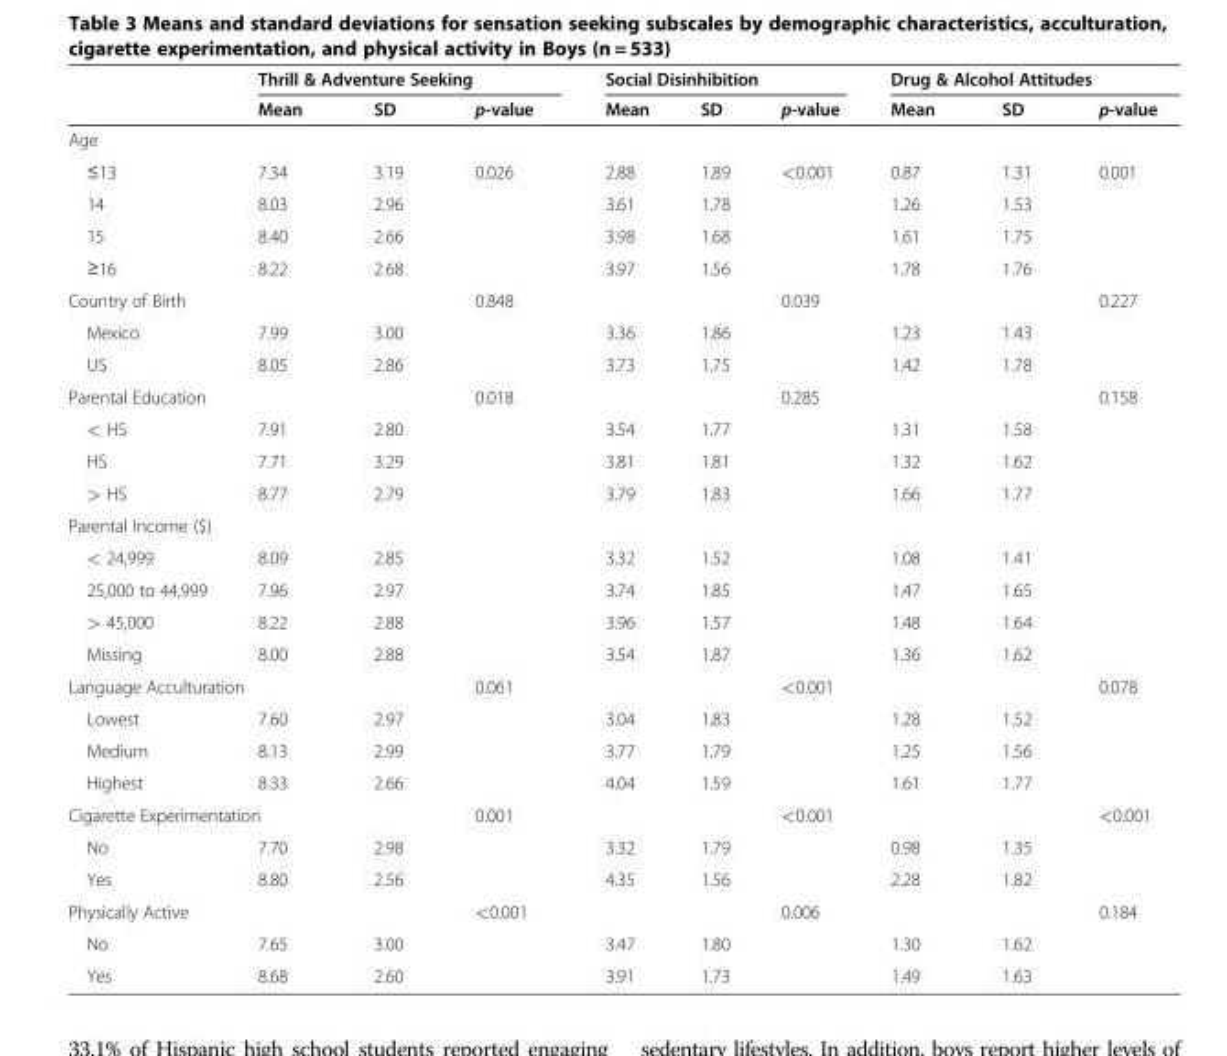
<table><thead><tr><td rowspan="2"></td><td colspan="3">Thrill &amp; Adventure Seeking</td><td colspan="3">Social Disinhibition</td><td colspan="3">Drug &amp; Alcohol Attitudes</td></tr><tr><td>Mean</td><td>SD</td><td>p-value</td><td>Mean</td><td>SD</td><td>p-value</td><td>Mean</td><td>SD</td><td>p-value</td></tr></thead><tbody><tr><td colspan="10">Age</td></tr><tr><td>≤13</td><td>7.34</td><td>3.19</td><td>0.026</td><td>2.88</td><td>1.89</td><td>&lt;0.001</td><td>0.87</td><td>1.31</td><td>0.001</td></tr><tr><td>14</td><td>8.03</td><td>2.96</td><td></td><td>3.61</td><td>1.78</td><td></td><td>1.26</td><td>1.53</td><td></td></tr><tr><td>15</td><td>8.40</td><td>2.66</td><td></td><td>3.98</td><td>1.68</td><td></td><td>1.61</td><td>1.75</td><td></td></tr><tr><td>≥16</td><td>8.22</td><td>2.68</td><td></td><td>3.97</td><td>1.56</td><td></td><td>1.78</td><td>1.76</td><td></td></tr><tr><td>Country of Birth</td><td></td><td></td><td>0.848</td><td></td><td></td><td>0.039</td><td></td><td></td><td>0.227</td></tr><tr><td>Mexico</td><td>7.99</td><td>3.00</td><td></td><td>3.36</td><td>1.86</td><td></td><td>1.23</td><td>1.43</td><td></td></tr><tr><td>US</td><td>8.05</td><td>2.86</td><td></td><td>3.73</td><td>1.75</td><td></td><td>1.42</td><td>1.78</td><td></td></tr><tr><td>Parental Education</td><td></td><td></td><td>0.018</td><td></td><td></td><td>0.285</td><td></td><td></td><td>0.158</td></tr><tr><td>&lt; HS</td><td>7.91</td><td>2.80</td><td></td><td>3.54</td><td>1.77</td><td></td><td>1.31</td><td>1.58</td><td></td></tr><tr><td>HS</td><td>7.71</td><td>3.29</td><td></td><td>3.81</td><td>1.81</td><td></td><td>1.32</td><td>1.62</td><td></td></tr><tr><td>&gt; HS</td><td>8.77</td><td>2.79</td><td></td><td>3.79</td><td>1.83</td><td></td><td>1.66</td><td>1.77</td><td></td></tr><tr><td colspan="10">Parental Income ($)</td></tr><tr><td>&lt; 24,999</td><td>8.09</td><td>2.85</td><td></td><td>3.32</td><td>1.52</td><td></td><td>1.08</td><td>1.41</td><td></td></tr><tr><td>25,000 to 44,999</td><td>7.96</td><td>2.97</td><td></td><td>3.74</td><td>1.85</td><td></td><td>1.47</td><td>1.65</td><td></td></tr><tr><td>&gt; 45,000</td><td>8.22</td><td>2.88</td><td></td><td>3.96</td><td>1.57</td><td></td><td>1.48</td><td>1.64</td><td></td></tr><tr><td>Missing</td><td>8.00</td><td>2.88</td><td></td><td>3.54</td><td>1.87</td><td></td><td>1.36</td><td>1.62</td><td></td></tr><tr><td colspan="2">Language Acculturation</td><td></td><td>0.061</td><td></td><td></td><td>&lt;0.001</td><td></td><td></td><td>0.078</td></tr><tr><td>Lowest</td><td>7.60</td><td>2.97</td><td></td><td>3.04</td><td>1.83</td><td></td><td>1.28</td><td>1.52</td><td></td></tr><tr><td>Medium</td><td>8.13</td><td>2.99</td><td></td><td>3.77</td><td>1.79</td><td></td><td>1.25</td><td>1.56</td><td></td></tr><tr><td>Highest</td><td>8.33</td><td>2.66</td><td></td><td>4.04</td><td>1.59</td><td></td><td>1.61</td><td>1.77</td><td></td></tr><tr><td colspan="2">Cigarette Experimentation</td><td></td><td>0.001</td><td></td><td></td><td>&lt;0.001</td><td></td><td></td><td>&lt;0.001</td></tr><tr><td>No</td><td>7.70</td><td>2.98</td><td></td><td>3.32</td><td>1.79</td><td></td><td>0.98</td><td>1.35</td><td></td></tr><tr><td>Yes</td><td>8.80</td><td>2.56</td><td></td><td>4.35</td><td>1.56</td><td></td><td>2.28</td><td>1.82</td><td></td></tr><tr><td>Physically Active</td><td></td><td></td><td>&lt;0.001</td><td></td><td></td><td>0.006</td><td></td><td></td><td>0.184</td></tr><tr><td>No</td><td>7.65</td><td>3.00</td><td></td><td>3.47</td><td>1.80</td><td></td><td>1.30</td><td>1.62</td><td></td></tr><tr><td>Yes</td><td>8.68</td><td>2.60</td><td></td><td>3.91</td><td>1.73</td><td></td><td>1.49</td><td>1.63</td><td></td></tr></tbody></table>